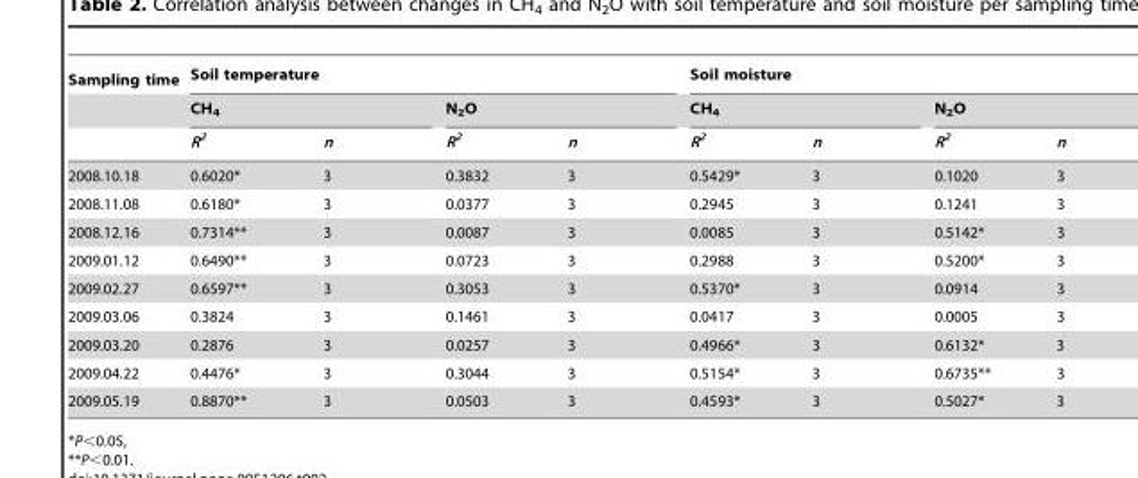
<table><thead><tr><td rowspan="3">Sampling time</td><td colspan="4">Soil temperature</td><td colspan="4">Soil moisture</td></tr><tr><td colspan="2">CH<sub>4</sub></td><td colspan="2">N<sub>2</sub>O</td><td colspan="2">CH<sub>4</sub></td><td colspan="2">N<sub>2</sub>O</td></tr><tr><td>R<sup>2</sup></td><td>n</td><td>R<sup>2</sup></td><td>n</td><td>R<sup>2</sup></td><td>n</td><td>R<sup>2</sup></td><td>n</td></tr></thead><tbody><tr><td>2008.10.18</td><td>0.6020*</td><td>3</td><td>0.3832</td><td>3</td><td>0.5429*</td><td>3</td><td>0.1020</td><td>3</td></tr><tr><td>2008.11.08</td><td>0.6180*</td><td>3</td><td>0.0377</td><td>3</td><td>0.2945</td><td>3</td><td>0.1241</td><td>3</td></tr><tr><td>2008.12.16</td><td>0.7314**</td><td>3</td><td>0.0087</td><td>3</td><td>0.0085</td><td>3</td><td>0.5142*</td><td>3</td></tr><tr><td>2009.01.12</td><td>0.6490**</td><td>3</td><td>0.0723</td><td>3</td><td>0.2988</td><td>3</td><td>0.5200*</td><td>3</td></tr><tr><td>2009.02.27</td><td>0.6597**</td><td>3</td><td>0.3053</td><td>3</td><td>0.5370*</td><td>3</td><td>0.0914</td><td>3</td></tr><tr><td>2009.03.06</td><td>0.3824</td><td>3</td><td>0.1461</td><td>3</td><td>0.0417</td><td>3</td><td>0.0005</td><td>3</td></tr><tr><td>2009.03.20</td><td>0.2876</td><td>3</td><td>0.0257</td><td>3</td><td>0.4966*</td><td>3</td><td>0.6132*</td><td>3</td></tr><tr><td>2009.04.22</td><td>0.4476*</td><td>3</td><td>0.3044</td><td>3</td><td>0.5154*</td><td>3</td><td>0.6735**</td><td>3</td></tr><tr><td>2009.05.19</td><td>0.8870**</td><td>3</td><td>0.0503</td><td>3</td><td>0.4593*</td><td>3</td><td>0.5027*</td><td>3</td></tr></tbody></table>